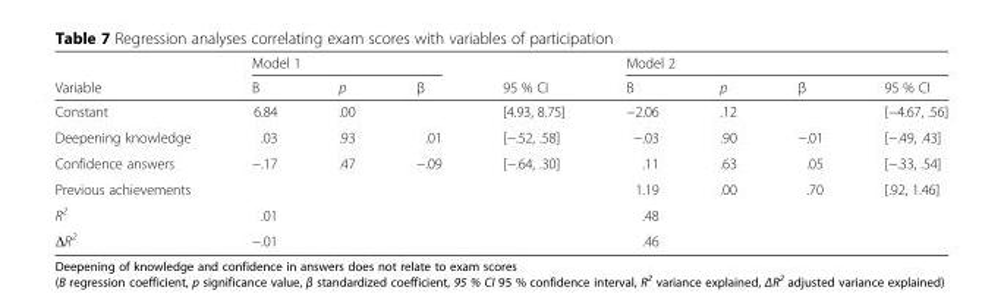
<table><thead><tr><td rowspan="2">Variable</td><td colspan="3">Model 1</td><td rowspan="2">95 % CI</td><td colspan="4">Model 2</td></tr><tr><td>B</td><td>p</td><td>β</td><td>B</td><td>p</td><td>β</td><td>95 % CI</td></tr></thead><tbody><tr><td>Constant</td><td>6.84</td><td>.00</td><td></td><td>[4.93, 8.75]</td><td>−2.06</td><td>.12</td><td></td><td>[−4.67, .56]</td></tr><tr><td>Deepening knowledge</td><td>.03</td><td>.93</td><td>.01</td><td>[−.52, .58]</td><td>−.03</td><td>.90</td><td>−.01</td><td>[−.49, .43]</td></tr><tr><td>Confidence answers</td><td>−.17</td><td>.47</td><td>−.09</td><td>[−.64, .30]</td><td>.11</td><td>.63</td><td>.05</td><td>[−.33, .54]</td></tr><tr><td>Previous achievements</td><td></td><td></td><td></td><td></td><td>1.19</td><td>.00</td><td>.70</td><td>[.92, 1.46]</td></tr><tr><td>R<sup>2</sup></td><td>.01</td><td></td><td></td><td></td><td>.48</td><td></td><td></td><td></td></tr><tr><td>ΔR<sup>2</sup></td><td>−.01</td><td></td><td></td><td></td><td>.46</td><td></td><td></td><td></td></tr></tbody></table>